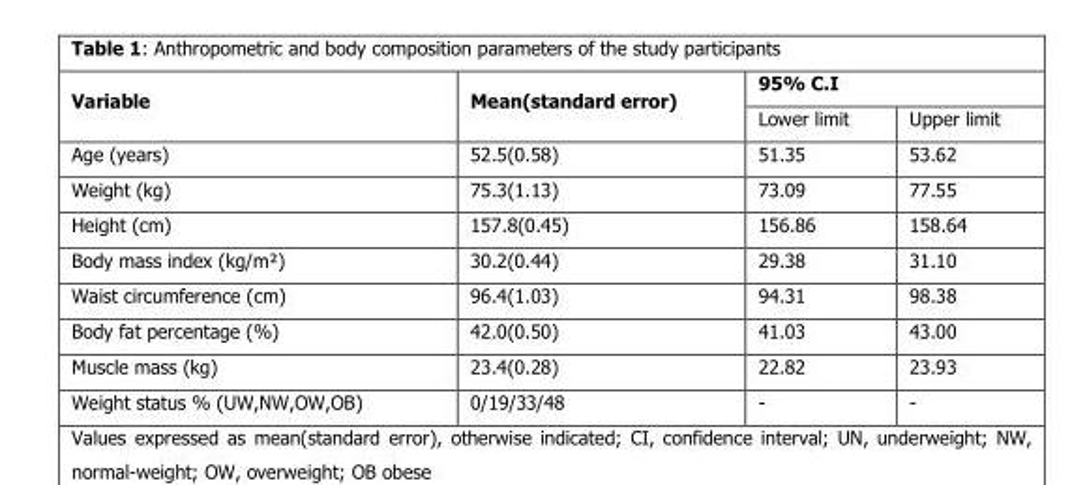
<table><thead><tr><td rowspan="2">Variable</td><td rowspan="2">Mean(standard error)</td><td colspan="2">95% C.I</td></tr><tr><td>Lower limit</td><td>Upper limit</td></tr></thead><tbody><tr><td>Age (years)</td><td>52.5(0.58)</td><td>51.35</td><td>53.62</td></tr><tr><td>Weight (kg)</td><td>75.3(1.13)</td><td>73.09</td><td>77.55</td></tr><tr><td>Height (cm)</td><td>157.8(0.45)</td><td>156.86</td><td>158.64</td></tr><tr><td>Body mass index (kg/m²)</td><td>30.2(0.44)</td><td>29.38</td><td>31.10</td></tr><tr><td>Waist circumference (cm)</td><td>96.4(1.03)</td><td>94.31</td><td>98.38</td></tr><tr><td>Body fat percentage (%)</td><td>42.0(0.50)</td><td>41.03</td><td>43.00</td></tr><tr><td>Muscle mass (kg)</td><td>23.4(0.28)</td><td>22.82</td><td>23.93</td></tr><tr><td>Weight status % (UW,NW,OW,OB)</td><td>0/19/33/48</td><td>-</td><td>-</td></tr></tbody></table>